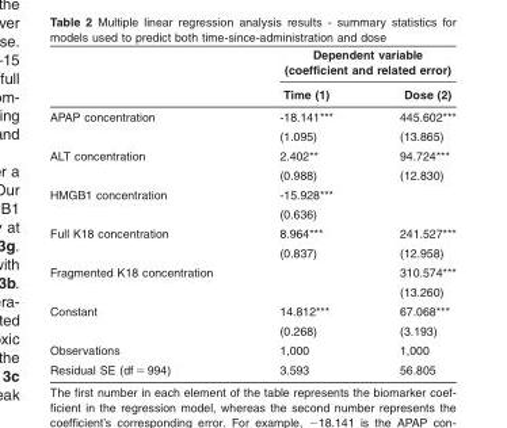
<table><thead><tr><td rowspan="2"></td><td colspan="2">Dependent variable (coefficient and related error)</td></tr><tr><td>Time (1)</td><td>Dose (2)</td></tr></thead><tbody><tr><td>APAP concentration</td><td>-18.141*** (1.095)</td><td>445.602*** (13.865)</td></tr><tr><td>ALT concentration</td><td>2.402** (0.988)</td><td>94.724*** (12.830)</td></tr><tr><td>HMGB1 concentration</td><td>-15.928*** (0.636)</td><td></td></tr><tr><td>Full K18 concentration</td><td>8.964*** (0.837)</td><td>241.527*** (12.958)</td></tr><tr><td>Fragmented K18 concentration</td><td></td><td>310.574*** (13.260)</td></tr><tr><td>Constant</td><td>14.812*** (0.268)</td><td>67.068*** (3.193)</td></tr><tr><td>Observations Residual SE (df = 994)</td><td>1,000 3.593</td><td>1,000 56.805</td></tr></tbody></table>